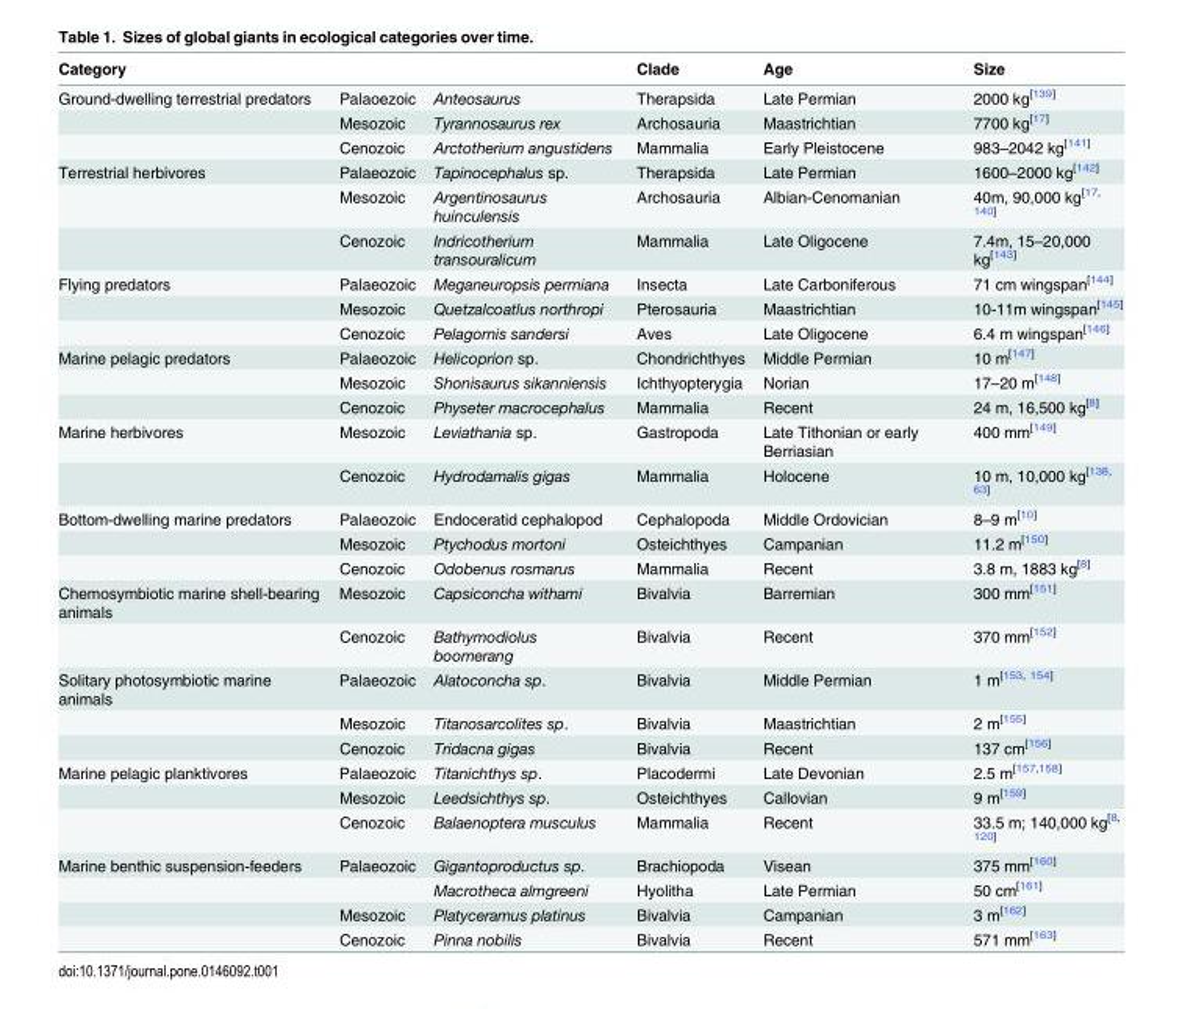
<table><thead><tr><td>Category</td><td></td><td></td><td>Clade</td><td>Age</td><td>Size</td></tr></thead><tbody><tr><td rowspan="3">Ground-dwelling terrestrial predators</td><td>Palaoezoic</td><td>Anteosaurus</td><td>Therapsida</td><td>Late Permian</td><td>2000 kg<sup>[139]</sup></td></tr><tr><td>Mesozoic</td><td>Tyrannosaurus rex</td><td>Archosauria</td><td>Maastrichtian</td><td>7700 kg<sup>[17]</sup></td></tr><tr><td>Cenozoic</td><td>Arctotherium angustidens</td><td>Mammalia</td><td>Early Pleistocene</td><td>983–2042 kg<sup>[141]</sup></td></tr><tr><td rowspan="3">Terrestrial herbivores</td><td>Palaeozoic</td><td>Tapinocephalus sp.</td><td>Therapsida</td><td>Late Permian</td><td>1600–2000 kg<sup>[142]</sup></td></tr><tr><td>Mesozoic</td><td>Argentinosaurus huinculensis</td><td>Archosauria</td><td>Albian-Cenomanian</td><td>40m, 90,000 kg<sup>[17, 140]</sup></td></tr><tr><td>Cenozoic</td><td>Indricotherium transouralicum</td><td>Mammalia</td><td>Late Oligocene</td><td>7.4m, 15–20,000 kg<sup>[143]</sup></td></tr><tr><td rowspan="3">Flying predators</td><td>Palaeozoic</td><td>Meganeuropsis permiana</td><td>Insecta</td><td>Late Carboniferous</td><td>71 cm wingspan<sup>[144]</sup></td></tr><tr><td>Mesozoic</td><td>Quetzalcoatlus northropi</td><td>Pterosauria</td><td>Maastrichtian</td><td>10-11m wingspan<sup>[145]</sup></td></tr><tr><td>Cenozoic</td><td>Pelagornis sandersi</td><td>Aves</td><td>Late Oligocene</td><td>6.4 m wingspan<sup>[146]</sup></td></tr><tr><td rowspan="3">Marine pelagic predators</td><td>Palaeozoic</td><td>Helicoprion sp.</td><td>Chondrichthyes</td><td>Middle Permian</td><td>10 m<sup>[147]</sup></td></tr><tr><td>Mesozoic</td><td>Shonisaurus sikanniensis</td><td>Ichthyopterygia</td><td>Norian</td><td>17–20 m<sup>[148]</sup></td></tr><tr><td>Cenozoic</td><td>Physeter macrocephalus</td><td>Mammalia</td><td>Recent</td><td>24 m, 16,500 kg<sup>[8]</sup></td></tr><tr><td rowspan="2">Marine herbivores</td><td>Mesozoic</td><td>Leviathania sp.</td><td>Gastropoda</td><td>Late Tithonian or early Berriasian</td><td>400 mm<sup>[149]</sup></td></tr><tr><td>Cenozoic</td><td>Hydrodamalis gigas</td><td>Mammalia</td><td>Holocene</td><td>10 m, 10,000 kg<sup>[138, 63]</sup></td></tr><tr><td rowspan="3">Bottom-dwelling marine predators</td><td>Palaeozoic</td><td>Endoceratid cephalopod</td><td>Cephalopoda</td><td>Middle Ordovician</td><td>8–9 m<sup>[10]</sup></td></tr><tr><td>Mesozoic</td><td>Ptychodus mortoni</td><td>Osteichthyes</td><td>Campanian</td><td>11.2 m<sup>[150]</sup></td></tr><tr><td>Cenozoic</td><td>Odobenus rosmarus</td><td>Mammalia</td><td>Recent</td><td>3.8 m, 1883 kg<sup>[8]</sup></td></tr><tr><td rowspan="2">Chemosymbiotic marine shell-bearing animals</td><td>Mesozoic</td><td>Capsiconcha withami</td><td>Bivalvia</td><td>Barremian</td><td>300 mm<sup>[151]</sup></td></tr><tr><td>Cenozoic</td><td>Bathymodiolus boomerang</td><td>Bivalvia</td><td>Recent</td><td>370 mm<sup>[152]</sup></td></tr><tr><td rowspan="3">Solitary photosymbiotic marine animals</td><td>Palaeozoic</td><td>Alatoconcha sp.</td><td>Bivalvia</td><td>Middle Permian</td><td>1 m<sup>[153, 154]</sup></td></tr><tr><td>Mesozoic</td><td>Titanosarcolites sp.</td><td>Bivalvia</td><td>Maastrichtian</td><td>2 m<sup>[155]</sup></td></tr><tr><td>Cenozoic</td><td>Tridacna gigas</td><td>Bivalvia</td><td>Recent</td><td>137 cm<sup>[156]</sup></td></tr><tr><td rowspan="3">Marine pelagic planktivores</td><td>Palaeozoic</td><td>Titanichthys sp.</td><td>Placodermi</td><td>Late Devonian</td><td>2.5 m<sup>[157,158]</sup></td></tr><tr><td>Mesozoic</td><td>Leedsichthys sp.</td><td>Osteichthyes</td><td>Callovian</td><td>9 m<sup>[159]</sup></td></tr><tr><td>Cenozoic</td><td>Balaenoptera musculus</td><td>Mammalia</td><td>Recent</td><td>33.5 m; 140,000 kg<sup>[8, 120]</sup></td></tr><tr><td rowspan="4">Marine benthic suspension-feeders</td><td>Palaeozoic</td><td>Gigantoproductus sp.</td><td>Brachiopoda</td><td>Visean</td><td>375 mm<sup>[160]</sup></td></tr><tr><td></td><td>Macrotheca almgreeni</td><td>Hyolitha</td><td>Late Permian</td><td>50 cm<sup>[161]</sup></td></tr><tr><td>Mesozoic</td><td>Platyceramus platinus</td><td>Bivalvia</td><td>Campanian</td><td>3 m<sup>[162]</sup></td></tr><tr><td>Cenozoic</td><td>Pinna nobilis</td><td>Bivalvia</td><td>Recent</td><td>571 mm<sup>[163]</sup></td></tr></tbody></table>